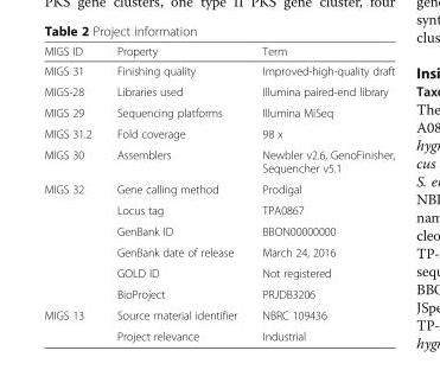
<table><thead><tr><td>MIGS ID</td><td>Property</td><td>Term</td></tr></thead><tbody><tr><td>MIGS 31</td><td>Finishing quality</td><td>Improved-high-quality draft</td></tr><tr><td>MIGS-28</td><td>Libraries used</td><td>Illumina paired-end library</td></tr><tr><td>MIGS 29</td><td>Sequencing platforms</td><td>Illumina MiSeq</td></tr><tr><td>MIGS 31.2</td><td>Fold coverage</td><td>98 x</td></tr><tr><td>MIGS 30</td><td>Assemblers</td><td>Newbler v2.6, GenoFinisher, Sequencher v5.1</td></tr><tr><td rowspan="6">MIGS 32</td><td>Gene calling method</td><td>Prodigal</td></tr><tr><td>Locus tag</td><td>TPA0867</td></tr><tr><td>GenBank ID</td><td>BBON00000000</td></tr><tr><td>GenBank date of release</td><td>March 24, 2016</td></tr><tr><td>GOLD ID</td><td>Not registered</td></tr><tr><td>BioProject</td><td>PRJDB3206</td></tr><tr><td rowspan="2">MIGS 13</td><td>Source material identifier</td><td>NBRC 109436</td></tr><tr><td>Project relevance</td><td>Industrial</td></tr></tbody></table>